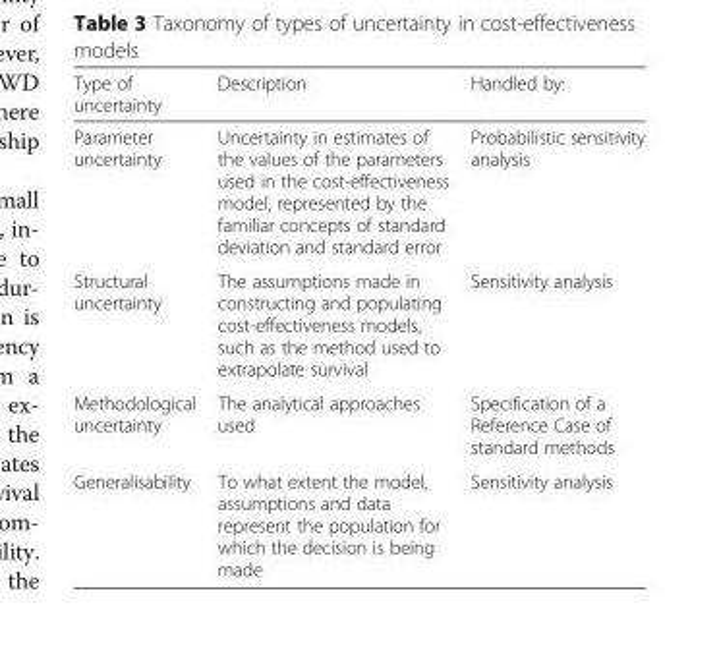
<table><thead><tr><td>Type of uncertainty</td><td>Description</td><td>Handled by:</td></tr></thead><tbody><tr><td>Parameter uncertainty</td><td>Uncertainty in estimates of the values of the parameters used in the cost-effectiveness model, represented by the familiar concepts of standard deviation and standard error</td><td>Probabilistic sensitivity analysis</td></tr><tr><td>Structural uncertainty</td><td>The assumptions made in constructing and populating cost-effectiveness models, such as the method used to extrapolate survival</td><td>Sensitivity analysis</td></tr><tr><td>Methodological uncertainty</td><td>The analytical approaches used</td><td>Specification of a Reference Case of standard methods</td></tr><tr><td>Generalisability</td><td>To what extent the model, assumptions and data represent the population for which the decision is being made</td><td>Sensitivity analysis</td></tr></tbody></table>